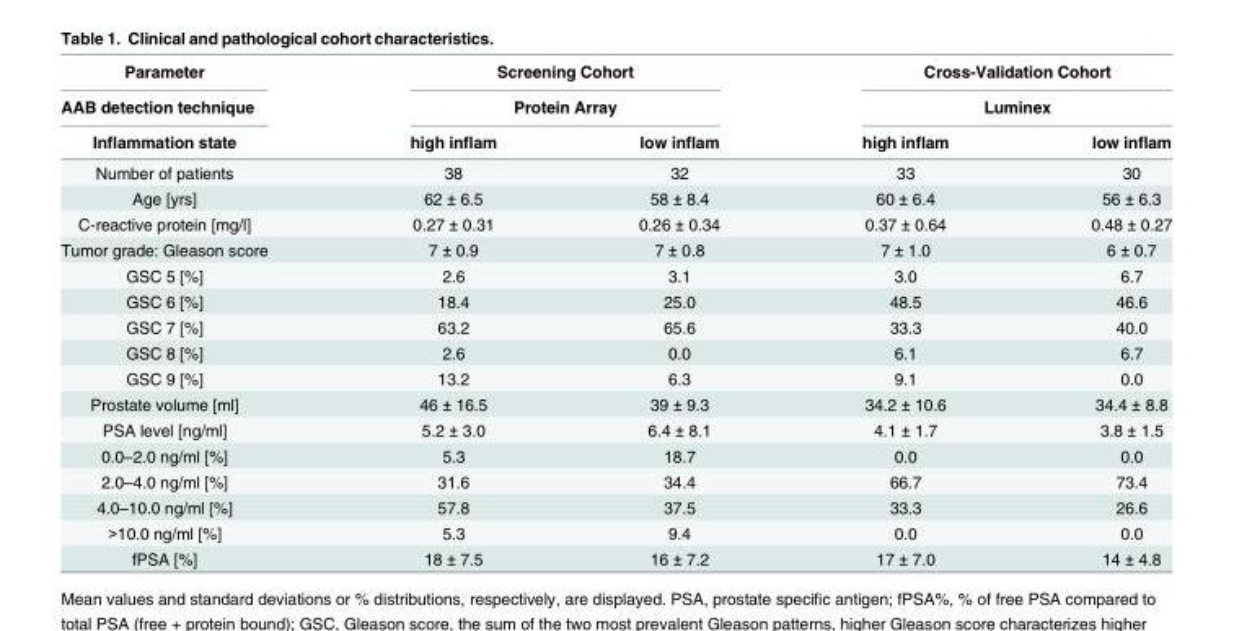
<table><thead><tr><td rowspan="3">Parameter AAB detection technique Inflammation state</td><td rowspan="2" colspan="2">Screening Cohort Protein Array</td><td rowspan="2" colspan="2">Cross-Validation Cohort Luminex</td></tr><tr></tr><tr><td>high inflam</td><td>low inflam</td><td>high inflam</td><td>low inflam</td></tr></thead><tbody><tr><td>Number of patients</td><td>38</td><td>32</td><td>33</td><td>30</td></tr><tr><td>Age [yrs]</td><td>62 ± 6.5</td><td>58 ± 8.4</td><td>60 ± 6.4</td><td>56 ± 6.3</td></tr><tr><td>C-reactive protein [mg/l]</td><td>0.27 ± 0.31</td><td>0.26 ± 0.34</td><td>0.37 ± 0.64</td><td>0.48 ± 0.27</td></tr><tr><td>Tumor grade: Gleason score</td><td>7 ± 0.9</td><td>7 ± 0.8</td><td>7 ± 1.0</td><td>6 ± 0.7</td></tr><tr><td>GSC 5 [%]</td><td>2.6</td><td>3.1</td><td>3.0</td><td>6.7</td></tr><tr><td>GSC 6 [%]</td><td>18.4</td><td>25.0</td><td>48.5</td><td>46.6</td></tr><tr><td>GSC 7 [%]</td><td>63.2</td><td>65.6</td><td>33.3</td><td>40.0</td></tr><tr><td>GSC 8 [%]</td><td>2.6</td><td>0.0</td><td>6.1</td><td>6.7</td></tr><tr><td>GSC 9 [%]</td><td>13.2</td><td>6.3</td><td>9.1</td><td>0.0</td></tr><tr><td>Prostate volume [ml]</td><td>46 ± 16.5</td><td>39 ± 9.3</td><td>34.2 ± 10.6</td><td>34.4 ± 8.8</td></tr><tr><td>PSA level [ng/ml]</td><td>5.2 ± 3.0</td><td>6.4 ± 8.1</td><td>4.1 ± 1.7</td><td>3.8 ± 1.5</td></tr><tr><td>0.0–2.0 ng/ml [%]</td><td>5.3</td><td>18.7</td><td>0.0</td><td>0.0</td></tr><tr><td>2.0–4.0 ng/ml [%]</td><td>31.6</td><td>34.4</td><td>66.7</td><td>73.4</td></tr><tr><td>4.0–10.0 ng/ml [%]</td><td>57.8</td><td>37.5</td><td>33.3</td><td>26.6</td></tr><tr><td>&gt;10.0 ng/ml [%]</td><td>5.3</td><td>9.4</td><td>0.0</td><td>0.0</td></tr><tr><td>fPSA [%]</td><td>18 ± 7.5</td><td>16 ± 7.2</td><td>17 ± 7.0</td><td>14 ± 4.8</td></tr></tbody></table>